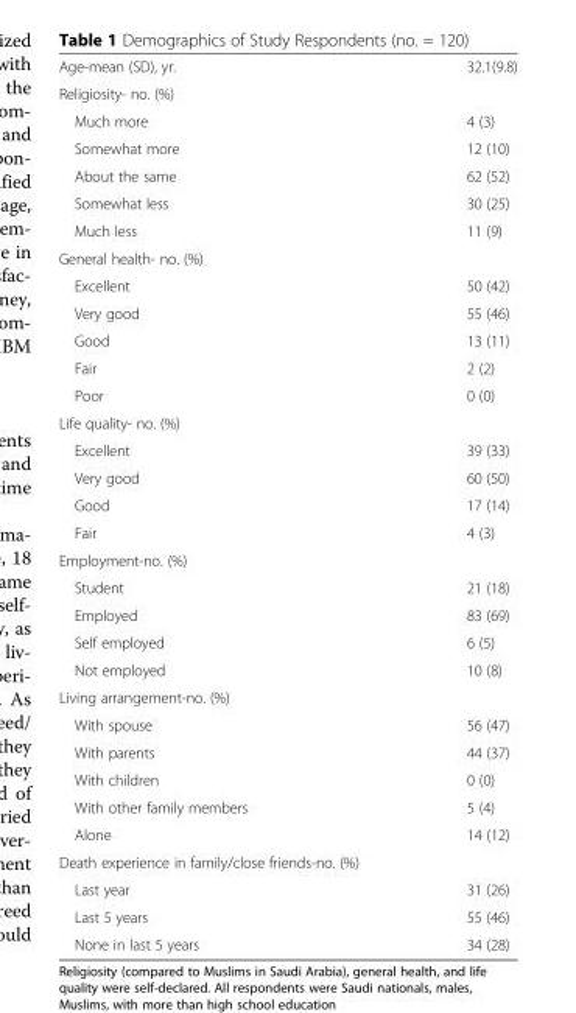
<table><tbody><tr><td>Age-mean (SD), yr.</td><td>32.1(9.8)</td></tr><tr><td colspan="2">Religiosity- no. (%)</td></tr><tr><td>Much more</td><td>4 (3)</td></tr><tr><td>Somewhat more</td><td>12 (10)</td></tr><tr><td>About the same</td><td>62 (52)</td></tr><tr><td>Somewhat less</td><td>30 (25)</td></tr><tr><td>Much less</td><td>11 (9)</td></tr><tr><td colspan="2">General health- no. (%)</td></tr><tr><td>Excellent</td><td>50 (42)</td></tr><tr><td>Very good</td><td>55 (46)</td></tr><tr><td>Good</td><td>13 (11)</td></tr><tr><td>Fair</td><td>2 (2)</td></tr><tr><td>Poor</td><td>0 (0)</td></tr><tr><td colspan="2">Life quality- no. (%)</td></tr><tr><td>Excellent</td><td>39 (33)</td></tr><tr><td>Very good</td><td>60 (50)</td></tr><tr><td>Good</td><td>17 (14)</td></tr><tr><td>Fair</td><td>4 (3)</td></tr><tr><td colspan="2">Employment-no. (%)</td></tr><tr><td>Student</td><td>21 (18)</td></tr><tr><td>Employed</td><td>83 (69)</td></tr><tr><td>Self employed</td><td>6 (5)</td></tr><tr><td>Not employed</td><td>10 (8)</td></tr><tr><td colspan="2">Living arrangement-no. (%)</td></tr><tr><td>With spouse</td><td>56 (47)</td></tr><tr><td>With parents</td><td>44 (37)</td></tr><tr><td>With children</td><td>0 (0)</td></tr><tr><td>With other family members</td><td>5 (4)</td></tr><tr><td>Alone</td><td>14 (12)</td></tr><tr><td colspan="2">Death experience in family/close friends-no. (%)</td></tr><tr><td>Last year</td><td>31 (26)</td></tr><tr><td>Last 5 years</td><td>55 (46)</td></tr><tr><td>None in last 5 years</td><td>34 (28)</td></tr></tbody></table>